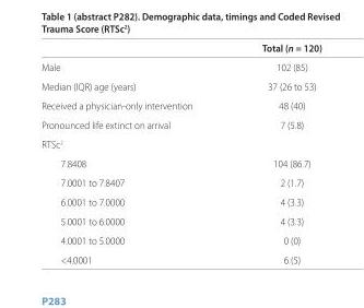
<table><thead><tr><td></td><td>Total (n = 120)</td></tr></thead><tbody><tr><td>Male</td><td>102 (85)</td></tr><tr><td>Median (IQR) age (years)</td><td>37 (26 to 53)</td></tr><tr><td>Received a physician-only intervention</td><td>48 (40)</td></tr><tr><td>Pronounced life extinct on arrival</td><td>7 (5.8)</td></tr><tr><td colspan="2">RTSc<sup>2</sup></td></tr><tr><td>7.8408</td><td>104 (86.7)</td></tr><tr><td>7.0001 to 7.8407</td><td>2 (1.7)</td></tr><tr><td>6.0001 to 7.0000</td><td>4 (3.3)</td></tr><tr><td>5.0001 to 6.0000</td><td>4 (3.3)</td></tr><tr><td>4.0001 to 5.0000</td><td>0 (0)</td></tr><tr><td>&lt;4.0001</td><td>6 (5)</td></tr></tbody></table>